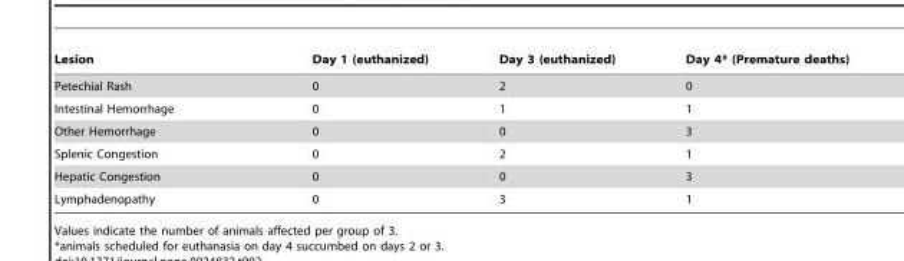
<table><thead><tr><td>Lesion</td><td>Day 1 (euthanized)</td><td>Day 3 (euthanized)</td><td>Day 4* (Premature deaths)</td></tr></thead><tbody><tr><td>Petechial Rash</td><td>0</td><td>2</td><td>0</td></tr><tr><td>Intestinal Hemorrhage</td><td>0</td><td>1</td><td>1</td></tr><tr><td>Other Hemorrhage</td><td>0</td><td>0</td><td>3</td></tr><tr><td>Splenic Congestion</td><td>0</td><td>2</td><td>1</td></tr><tr><td>Hepatic Congestion</td><td>0</td><td>0</td><td>3</td></tr><tr><td>Lymphadenopathy</td><td>0</td><td>3</td><td>1</td></tr></tbody></table>